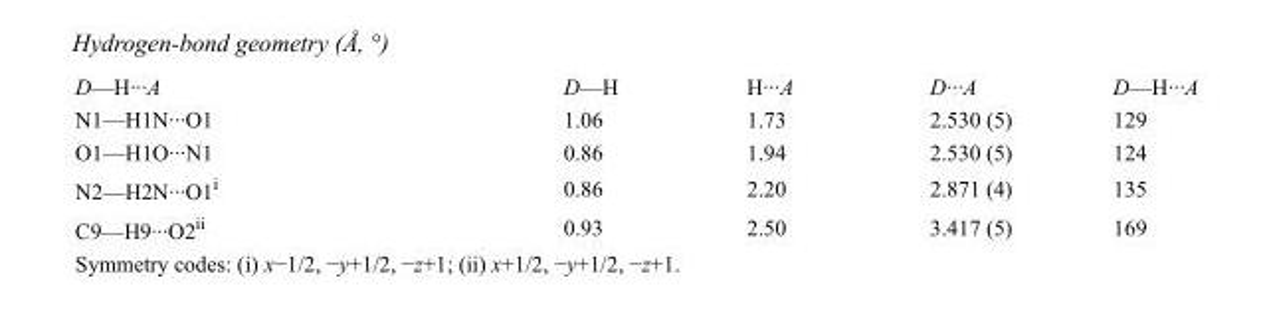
<table><tbody><tr><td>D—H···A</td><td>D—H</td><td>H···A</td><td>D···A</td><td>D—H···A</td></tr><tr><td>N1—H1N···O1</td><td>1.06</td><td>1.73</td><td>2.530 (5)</td><td>129</td></tr><tr><td>O1—H1O···N1</td><td>0.86</td><td>1.94</td><td>2.530 (5)</td><td>124</td></tr><tr><td>N2—H2N···O1<sup>i</sup></td><td>0.86</td><td>2.20</td><td>2.871 (4)</td><td>135</td></tr><tr><td>C9—H9···O2<sup>ii</sup></td><td>0.93</td><td>2.50</td><td>3.417 (5)</td><td>169</td></tr></tbody></table>